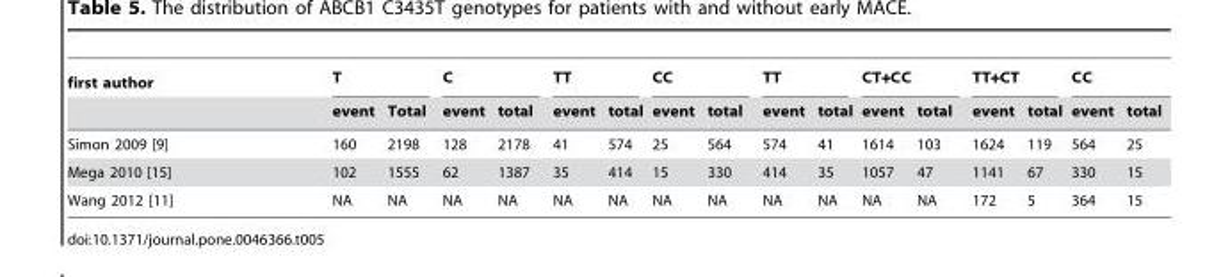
<table><thead><tr><td rowspan="2">first author</td><td colspan="2">T</td><td colspan="2">C</td><td colspan="2">TT</td><td colspan="2">CC</td><td colspan="2">TT</td><td colspan="2">CT+CC</td><td colspan="2">TT+CT</td><td colspan="2">CC</td></tr><tr><td>event</td><td>Total</td><td>event</td><td>total</td><td>event</td><td>total</td><td>event</td><td>total</td><td>event</td><td>total</td><td>event</td><td>total</td><td>event</td><td>total</td><td>event</td><td>total</td></tr></thead><tbody><tr><td>Simon 2009 [9]</td><td>160</td><td>2198</td><td>128</td><td>2178</td><td>41</td><td>574</td><td>25</td><td>564</td><td>574</td><td>41</td><td>1614</td><td>103</td><td>1624</td><td>119</td><td>564</td><td>25</td></tr><tr><td>Mega 2010 [15]</td><td>102</td><td>1555</td><td>62</td><td>1387</td><td>35</td><td>414</td><td>15</td><td>330</td><td>414</td><td>35</td><td>1057</td><td>47</td><td>1141</td><td>67</td><td>330</td><td>15</td></tr><tr><td>Wang 2012 [11]</td><td>NA</td><td>NA</td><td>NA</td><td>NA</td><td>NA</td><td>NA</td><td>NA</td><td>NA</td><td>NA</td><td>NA</td><td>NA</td><td>NA</td><td>172</td><td>5</td><td>364</td><td>15</td></tr></tbody></table>